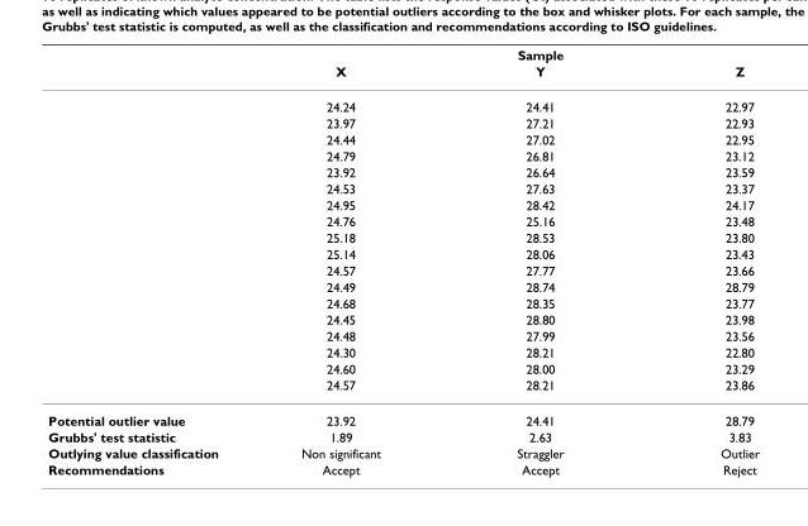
<table><thead><tr><td rowspan="2"></td><td colspan="3">Sample</td></tr><tr><td>X</td><td>Y</td><td>Z</td></tr></thead><tbody><tr><td></td><td>24.24</td><td>24.41</td><td>22.97</td></tr><tr><td></td><td>23.97</td><td>27.21</td><td>22.93</td></tr><tr><td></td><td>24.44</td><td>27.02</td><td>22.95</td></tr><tr><td></td><td>24.79</td><td>26.81</td><td>23.12</td></tr><tr><td></td><td>23.92</td><td>26.64</td><td>23.59</td></tr><tr><td></td><td>24.53</td><td>27.63</td><td>23.37</td></tr><tr><td></td><td>24.95</td><td>28.42</td><td>24.17</td></tr><tr><td></td><td>24.76</td><td>25.16</td><td>23.48</td></tr><tr><td></td><td>25.18</td><td>28.53</td><td>23.80</td></tr><tr><td></td><td>25.14</td><td>28.06</td><td>23.43</td></tr><tr><td></td><td>24.57</td><td>27.77</td><td>23.66</td></tr><tr><td></td><td>24.49</td><td>28.74</td><td>28.79</td></tr><tr><td></td><td>24.68</td><td>28.35</td><td>23.77</td></tr><tr><td></td><td>24.45</td><td>28.80</td><td>23.98</td></tr><tr><td></td><td>24.48</td><td>27.99</td><td>23.56</td></tr><tr><td></td><td>24.30</td><td>28.21</td><td>22.80</td></tr><tr><td></td><td>24.60</td><td>28.00</td><td>23.29</td></tr><tr><td></td><td>24.57</td><td>28.21</td><td>23.86</td></tr><tr><td>Potential outlier value</td><td>23.92</td><td>24.41</td><td>28.79</td></tr><tr><td>Grubbs&#x27; test statistic</td><td>1.89</td><td>2.63</td><td>3.83</td></tr><tr><td>Outlying value classification</td><td>Non significant</td><td>Straggler</td><td>Outlier</td></tr><tr><td>Recommendations</td><td>Accept</td><td>Accept</td><td>Reject</td></tr></tbody></table>